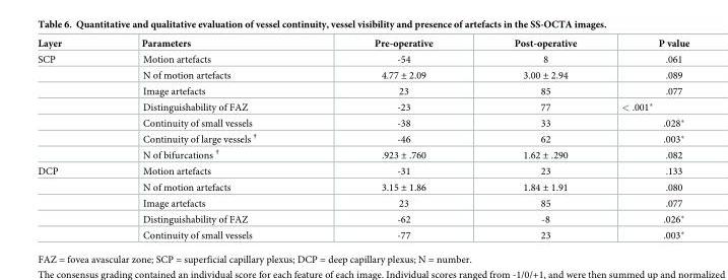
<table><thead><tr><td>Layer</td><td>Parameters</td><td>Pre-operative</td><td>Post-operative</td><td>P value</td></tr></thead><tbody><tr><td rowspan="7">SCP</td><td>Motion artefacts</td><td>-54</td><td>8</td><td>.061</td></tr><tr><td>N of motion artefacts</td><td>4.77 ± 2.09</td><td>3.00 ± 2.94</td><td>.089</td></tr><tr><td>Image artefacts</td><td>23</td><td>85</td><td>.077</td></tr><tr><td>Distinguishability of FAZ</td><td>-23</td><td>77</td><td>&lt; .001*</td></tr><tr><td>Continuity of small vessels</td><td>-38</td><td>33</td><td>.028*</td></tr><tr><td>Continuity of large vessels <sup>†</sup></td><td>-46</td><td>62</td><td>.003*</td></tr><tr><td>N of bifurcations <sup>†</sup></td><td>.923 ± .760</td><td>1.62 ± .290</td><td>.082</td></tr><tr><td rowspan="5">DCP</td><td>Motion artefacts</td><td>-31</td><td>23</td><td>.133</td></tr><tr><td>N of motion artefacts</td><td>3.15 ± 1.86</td><td>1.84 ± 1.91</td><td>.080</td></tr><tr><td>Image artefacts</td><td>23</td><td>85</td><td>.077</td></tr><tr><td>Distinguishability of FAZ</td><td>-62</td><td>-8</td><td>.026*</td></tr><tr><td>Continuity of small vessels</td><td>-77</td><td>23</td><td>.003*</td></tr></tbody></table>